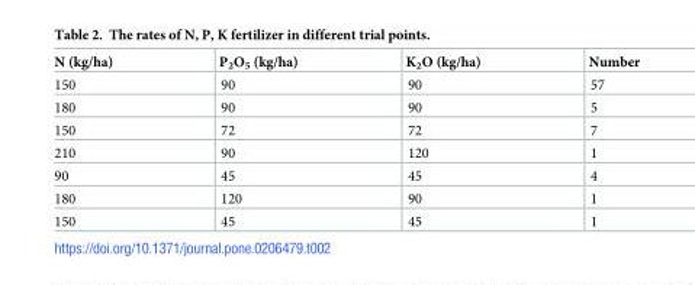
<table><thead><tr><td>N (kg/ha)</td><td>P<sub>2</sub>O<sub>5</sub> (kg/ha)</td><td>K<sub>2</sub>O (kg/ha)</td><td>Number</td></tr></thead><tbody><tr><td>150</td><td>90</td><td>90</td><td>57</td></tr><tr><td>180</td><td>90</td><td>90</td><td>5</td></tr><tr><td>150</td><td>72</td><td>72</td><td>7</td></tr><tr><td>210</td><td>90</td><td>120</td><td>1</td></tr><tr><td>90</td><td>45</td><td>45</td><td>4</td></tr><tr><td>180</td><td>120</td><td>90</td><td>1</td></tr><tr><td>150</td><td>45</td><td>45</td><td>1</td></tr></tbody></table>